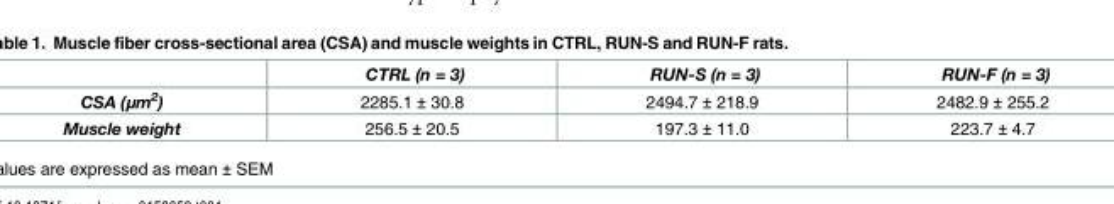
<table><thead><tr><td></td><td>CTRL (n = 3)</td><td>RUN-S (n = 3)</td><td>RUN-F (n = 3)</td></tr></thead><tbody><tr><td>CSA (μm<sup>2</sup>)</td><td>2285.1 ± 30.8</td><td>2494.7 ± 218.9</td><td>2482.9 ± 255.2</td></tr><tr><td>Muscle weight</td><td>256.5 ± 20.5</td><td>197.3 ± 11.0</td><td>223.7 ± 4.7</td></tr></tbody></table>